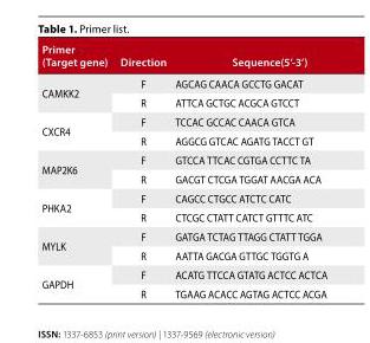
<table><thead><tr><td>Primer (Target gene)</td><td>Direction</td><td>Sequence(5’-3’)</td></tr></thead><tbody><tr><td rowspan="2">CAMKK2</td><td>F</td><td>AGCAG CAACA GCCTG GACAT</td></tr><tr><td>R</td><td>ATTCA GCTGC ACGCA GTCCT</td></tr><tr><td rowspan="2">CXCR4</td><td>F</td><td>TCCAC GCCAC CAACA GTCA</td></tr><tr><td>R</td><td>AGGCG GTCAC AGATG TACCT GT</td></tr><tr><td rowspan="2">MAP2K6</td><td>F</td><td>GTCCA TTCAC CGTGA CCTTC TA</td></tr><tr><td>R</td><td>GACGT CTCGA TGGAT AACGA ACA</td></tr><tr><td rowspan="2">PHKA2</td><td>F</td><td>CAGCC CTGCC ATCTC CATC</td></tr><tr><td>R</td><td>CTCGC CTATT CATCT GTTTC ATC</td></tr><tr><td rowspan="2">MYLK</td><td>F</td><td>GATGA TCTAG TTAGG CTATT TGGA</td></tr><tr><td>R</td><td>AATTA GACGA GTTGC TGGTG A</td></tr><tr><td rowspan="2">GAPDH</td><td>F</td><td>ACATG TTCCA GTATG ACTCC ACTCA</td></tr><tr><td>R</td><td>TGAAG ACACC AGTAG ACTCC ACGA</td></tr></tbody></table>